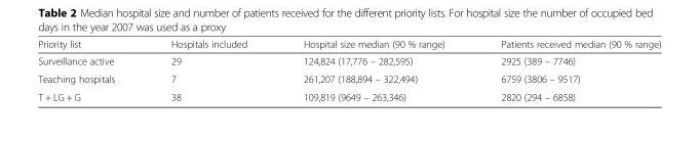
<table><thead><tr><td>Priority list</td><td>Hospitals included</td><td>Hospital size median (90 % range)</td><td>Patients received median (90 % range)</td></tr></thead><tbody><tr><td>Surveillance active</td><td>29</td><td>124,824 (17,776 – 282,595)</td><td>2925 (389 – 7746)</td></tr><tr><td>Teaching hospitals</td><td>7</td><td>261,207 (188,894 – 322,494)</td><td>6759 (3806 – 9517)</td></tr><tr><td>T + LG + G</td><td>38</td><td>109,819 (9649 – 263,346)</td><td>2820 (294 – 6858)</td></tr></tbody></table>